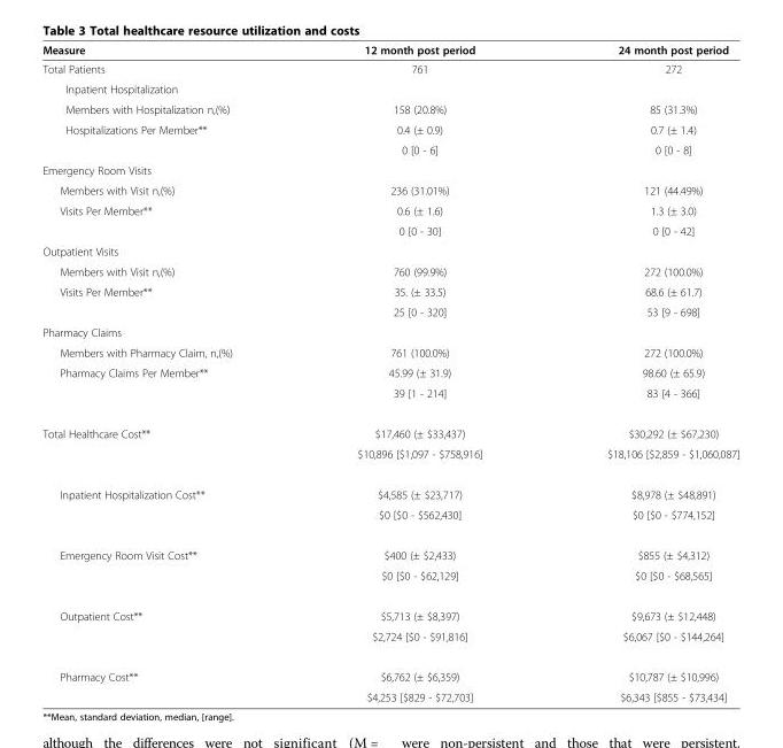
<table><thead><tr><td>Measure</td><td>12 month post period</td><td>24 month post period</td></tr></thead><tbody><tr><td>Total Patients</td><td>761</td><td>272</td></tr><tr><td colspan="3">Inpatient Hospitalization</td></tr><tr><td>Members with Hospitalization n,(%)</td><td>158 (20.8%)</td><td>85 (31.3%)</td></tr><tr><td rowspan="2">Hospitalizations Per Member**</td><td>0.4 (± 0.9)</td><td>0.7 (± 1.4)</td></tr><tr><td>0 [0 - 6]</td><td>0 [0 - 8]</td></tr><tr><td colspan="3">Emergency Room Visits</td></tr><tr><td>Members with Visit n,(%)</td><td>236 (31.01%)</td><td>121 (44.49%)</td></tr><tr><td rowspan="2">Visits Per Member**</td><td>0.6 (± 1.6)</td><td>1.3 (± 3.0)</td></tr><tr><td>0 [0 - 30]</td><td>0 [0 - 42]</td></tr><tr><td colspan="3">Outpatient Visits</td></tr><tr><td>Members with Visit n,(%)</td><td>760 (99.9%)</td><td>272 (100.0%)</td></tr><tr><td rowspan="2">Visits Per Member**</td><td>35. (± 33.5)</td><td>68.6 (± 61.7)</td></tr><tr><td>25 [0 - 320]</td><td>53 [9 - 698]</td></tr><tr><td colspan="3">Pharmacy Claims</td></tr><tr><td>Members with Pharmacy Claim, n,(%)</td><td>761 (100.0%)</td><td>272 (100.0%)</td></tr><tr><td rowspan="2">Pharmacy Claims Per Member**</td><td>45.99 (± 31.9)</td><td>98.60 (± 65.9)</td></tr><tr><td>39 [1 - 214]</td><td>83 [4 - 366]</td></tr><tr><td rowspan="2">Total Healthcare Cost**</td><td>$17,460 (± $33,437)</td><td>$30,292 (± $67,230)</td></tr><tr><td>$10,896 [$1,097 - $758,916]</td><td>$18,106 [$2,859 - $1,060,087]</td></tr><tr><td rowspan="2">Inpatient Hospitalization Cost**</td><td>$4,585 (± $23,717)</td><td>$8,978 (± $48,891)</td></tr><tr><td>$0 [$0 - $562,430]</td><td>$0 [$0 - $774,152]</td></tr><tr><td rowspan="2">Emergency Room Visit Cost**</td><td>$400 (± $2,433)</td><td>$855 (± $4,312)</td></tr><tr><td>$0 [$0 - $62,129]</td><td>$0 [$0 - $68,565]</td></tr><tr><td rowspan="2">Outpatient Cost**</td><td>$5,713 (± $8,397)</td><td>$9,673 (± $12,448)</td></tr><tr><td>$2,724 [$0 - $91,816]</td><td>$6,067 [$0 - $144,264]</td></tr><tr><td rowspan="2">Pharmacy Cost**</td><td>$6,762 (± $6,359)</td><td>$10,787 (± $10,996)</td></tr><tr><td>$4,253 [$829 - $72,703]</td><td>$6,343 [$855 - $73,434]</td></tr></tbody></table>